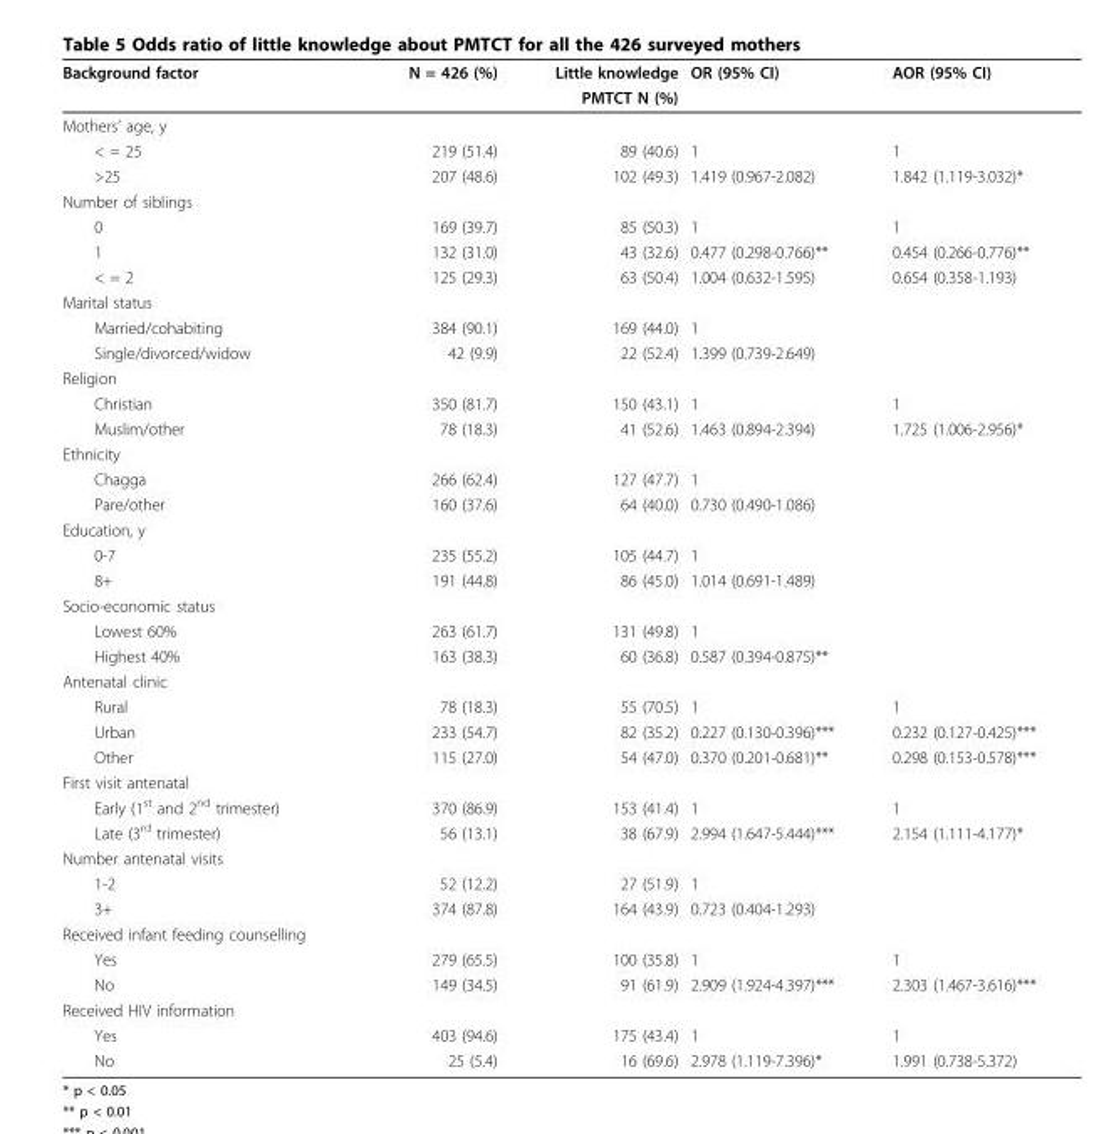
<table><thead><tr><td rowspan="2">Background factor</td><td rowspan="2">N = 426 (%)</td><td rowspan="2">Little knowledge PMTCT N (%)</td><td rowspan="2">OR (95% CI)</td><td rowspan="2">AOR (95% CI)</td></tr><tr></tr></thead><tbody><tr><td colspan="5">Mothers’ age, y</td></tr><tr><td>&lt; = 25</td><td>219 (51.4)</td><td>89 (40.6)</td><td>1</td><td>1</td></tr><tr><td>&gt;25</td><td>207 (48.6)</td><td>102 (49.3)</td><td>1.419 (0.967-2.082)</td><td>1.842 (1.119-3.032)*</td></tr><tr><td colspan="5">Number of siblings</td></tr><tr><td>0</td><td>169 (39.7)</td><td>85 (50.3)</td><td>1</td><td>1</td></tr><tr><td>1</td><td>132 (31.0)</td><td>43 (32.6)</td><td>0.477 (0.298-0.766)**</td><td>0.454 (0.266-0.776)**</td></tr><tr><td>&lt; = 2</td><td>125 (29.3)</td><td>63 (50.4)</td><td>1.004 (0.632-1.595)</td><td>0.654 (0.358-1.193)</td></tr><tr><td colspan="5">Marital status</td></tr><tr><td>Married/cohabiting</td><td>384 (90.1)</td><td>169 (44.0)</td><td>1</td><td></td></tr><tr><td>Single/divorced/widow</td><td>42 (9.9)</td><td>22 (52.4)</td><td>1.399 (0.739-2.649)</td><td></td></tr><tr><td colspan="5">Religion</td></tr><tr><td>Christian</td><td>350 (81.7)</td><td>150 (43.1)</td><td>1</td><td>1</td></tr><tr><td>Muslim/other</td><td>78 (18.3)</td><td>41 (52.6)</td><td>1.463 (0.894-2.394)</td><td>1.725 (1.006-2.956)*</td></tr><tr><td colspan="5">Ethnicity</td></tr><tr><td>Chagga</td><td>266 (62.4)</td><td>127 (47.7)</td><td>1</td><td></td></tr><tr><td>Pare/other</td><td>160 (37.6)</td><td>64 (40.0)</td><td>0.730 (0.490-1.086)</td><td></td></tr><tr><td colspan="5">Education, y</td></tr><tr><td>0-7</td><td>235 (55.2)</td><td>105 (44.7)</td><td>1</td><td></td></tr><tr><td>8+</td><td>191 (44.8)</td><td>86 (45.0)</td><td>1.014 (0.691-1.489)</td><td></td></tr><tr><td colspan="5">Socio-economic status</td></tr><tr><td>Lowest 60%</td><td>263 (61.7)</td><td>131 (49.8)</td><td>1</td><td></td></tr><tr><td>Highest 40%</td><td>163 (38.3)</td><td>60 (36.8)</td><td>0.587 (0.394-0.875)**</td><td></td></tr><tr><td colspan="5">Antenatal clinic</td></tr><tr><td>Rural</td><td>78 (18.3)</td><td>55 (70.5)</td><td>1</td><td>1</td></tr><tr><td>Urban</td><td>233 (54.7)</td><td>82 (35.2)</td><td>0.227 (0.130-0.396)***</td><td>0.232 (0.127-0.425)***</td></tr><tr><td>Other</td><td>115 (27.0)</td><td>54 (47.0)</td><td>0.370 (0.201-0.681)**</td><td>0.298 (0.153-0.578)***</td></tr><tr><td colspan="5">First visit antenatal</td></tr><tr><td>Early (1<sup>st</sup> and 2<sup>nd</sup> trimester)</td><td>370 (86.9)</td><td>153 (41.4)</td><td>1</td><td>1</td></tr><tr><td>Late (3<sup>rd</sup> trimester)</td><td>56 (13.1)</td><td>38 (67.9)</td><td>2.994 (1.647-5.444)***</td><td>2.154 (1.111-4.177)*</td></tr><tr><td colspan="5">Number antenatal visits</td></tr><tr><td>1-2</td><td>52 (12.2)</td><td>27 (51.9)</td><td>1</td><td></td></tr><tr><td>3+</td><td>374 (87.8)</td><td>164 (43.9)</td><td>0.723 (0.404-1.293)</td><td></td></tr><tr><td colspan="5">Received infant feeding counselling</td></tr><tr><td>Yes</td><td>279 (65.5)</td><td>100 (35.8)</td><td>1</td><td>1</td></tr><tr><td>No</td><td>149 (34.5)</td><td>91 (61.9)</td><td>2.909 (1.924-4.397)***</td><td>2.303 (1.467-3.616)***</td></tr><tr><td colspan="5">Received HIV information</td></tr><tr><td>Yes</td><td>403 (94.6)</td><td>175 (43.4)</td><td>1</td><td>1</td></tr><tr><td>No</td><td>25 (5.4)</td><td>16 (69.6)</td><td>2.978 (1.119-7.396)*</td><td>1.991 (0.738-5.372)</td></tr></tbody></table>